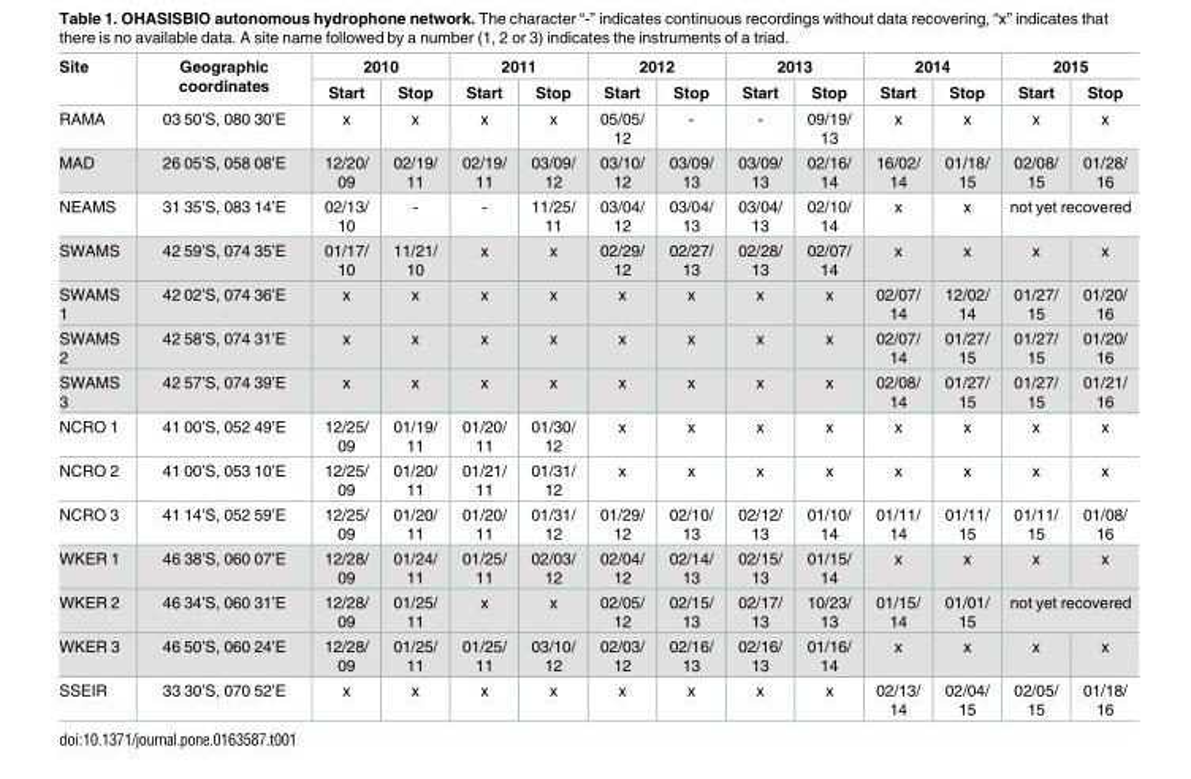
<table><thead><tr><td rowspan="2">Site</td><td rowspan="2">Geographic coordinates</td><td colspan="2">2010</td><td colspan="2">2011</td><td colspan="2">2012</td><td colspan="2">2013</td><td colspan="2">2014</td><td colspan="2">2015</td></tr><tr><td>Start</td><td>Stop</td><td>Start</td><td>Stop</td><td>Start</td><td>Stop</td><td>Start</td><td>Stop</td><td>Start</td><td>Stop</td><td>Start</td><td>Stop</td></tr></thead><tbody><tr><td>RAMA</td><td>03 50’S, 080 30’E</td><td>x</td><td>x</td><td>x</td><td>x</td><td>05/05/ 12</td><td>-</td><td>-</td><td>09/19/ 13</td><td>x</td><td>x</td><td>x</td><td>x</td></tr><tr><td>MAD</td><td>26 05’S, 058 08’E</td><td>12/20/ 09</td><td>02/19/ 11</td><td>02/19/ 11</td><td>03/09/ 12</td><td>03/10/ 12</td><td>03/09/ 13</td><td>03/09/ 13</td><td>02/16/ 14</td><td>16/02/ 14</td><td>01/18/ 15</td><td>02/08/ 15</td><td>01/28/ 16</td></tr><tr><td>NEAMS</td><td>31 35’S, 083 14’E</td><td>02/13/ 10</td><td>-</td><td>-</td><td>11/25/ 11</td><td>03/04/ 12</td><td>03/04/ 13</td><td>03/04/ 13</td><td>02/10/ 14</td><td>x</td><td>x</td><td colspan="2">not yet recovered</td></tr><tr><td>SWAMS</td><td>42 59’S, 074 35’E</td><td>01/17/ 10</td><td>11/21/ 10</td><td>x</td><td>x</td><td>02/29/ 12</td><td>02/27/ 13</td><td>02/28/ 13</td><td>02/07/ 14</td><td>x</td><td>x</td><td>x</td><td>x</td></tr><tr><td>SWAMS 1</td><td>42 02’S, 074 36’E</td><td>x</td><td>x</td><td>x</td><td>x</td><td>x</td><td>x</td><td>x</td><td>x</td><td>02/07/ 14</td><td>12/02/ 14</td><td>01/27/ 15</td><td>01/20/ 16</td></tr><tr><td>SWAMS 2</td><td>42 58’S, 074 31’E</td><td>x</td><td>x</td><td>x</td><td>x</td><td>x</td><td>x</td><td>x</td><td>x</td><td>02/07/ 14</td><td>01/27/ 15</td><td>01/27/ 15</td><td>01/20/ 16</td></tr><tr><td>SWAMS 3</td><td>42 57’S, 074 39’E</td><td>x</td><td>x</td><td>x</td><td>x</td><td>x</td><td>x</td><td>x</td><td>x</td><td>02/08/ 14</td><td>01/27/ 15</td><td>01/27/ 15</td><td>01/21/ 16</td></tr><tr><td>NCRO 1</td><td>41 00’S, 052 49’E</td><td>12/25/ 09</td><td>01/19/ 11</td><td>01/20/ 11</td><td>01/30/ 12</td><td>x</td><td>x</td><td>x</td><td>x</td><td>x</td><td>x</td><td>x</td><td>x</td></tr><tr><td>NCRO 2</td><td>41 00’S, 053 10’E</td><td>12/25/ 09</td><td>01/20/ 11</td><td>01/21/ 11</td><td>01/31/ 12</td><td>x</td><td>x</td><td>x</td><td>x</td><td>x</td><td>x</td><td>x</td><td>x</td></tr><tr><td>NCRO 3</td><td>41 14’S, 052 59’E</td><td>12/25/ 09</td><td>01/20/ 11</td><td>01/20/ 11</td><td>01/31/ 12</td><td>01/29/ 12</td><td>02/10/ 13</td><td>02/12/ 13</td><td>01/10/ 14</td><td>01/11/ 14</td><td>01/11/ 15</td><td>01/11/ 15</td><td>01/08/ 16</td></tr><tr><td>WKER 1</td><td>46 38’S, 060 07’E</td><td>12/28/ 09</td><td>01/24/ 11</td><td>01/25/ 11</td><td>02/03/ 12</td><td>02/04/ 12</td><td>02/14/ 13</td><td>02/15/ 13</td><td>01/15/ 14</td><td>x</td><td>x</td><td>x</td><td>x</td></tr><tr><td>WKER 2</td><td>46 34’S, 060 31’E</td><td>12/28/ 09</td><td>01/25/ 11</td><td>x</td><td>x</td><td>02/05/ 12</td><td>02/15/ 13</td><td>02/17/ 13</td><td>10/23/ 13</td><td>01/15/ 14</td><td>01/01/ 15</td><td colspan="2">not yet recovered</td></tr><tr><td>WKER 3</td><td>46 50’S, 060 24’E</td><td>12/28/ 09</td><td>01/25/ 11</td><td>01/25/ 11</td><td>03/10/ 12</td><td>02/03/ 12</td><td>02/16/ 13</td><td>02/16/ 13</td><td>01/16/ 14</td><td>x</td><td>x</td><td>x</td><td>x</td></tr><tr><td>SSEIR</td><td>33 30’S, 070 52’E</td><td>x</td><td>x</td><td>x</td><td>x</td><td>x</td><td>x</td><td>x</td><td>x</td><td>02/13/ 14</td><td>02/04/ 15</td><td>02/05/ 15</td><td>01/18/ 16</td></tr></tbody></table>